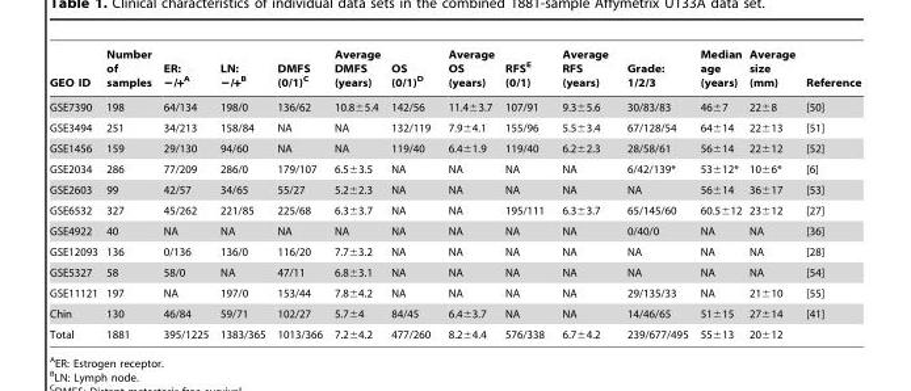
<table><thead><tr><td>GEO ID</td><td>Number of samples</td><td>ER: −/+<sup>A</sup></td><td>LN: −/+<sup>B</sup></td><td>DMFS (0/1)<sup>C</sup></td><td>Average DMFS (years)</td><td>OS (0/1)<sup>D</sup></td><td>Average OS (years)</td><td>RFS<sup>E</sup> (0/1)</td><td>Average RFS (years)</td><td>Grade: 1/2/3</td><td>Median age (years)</td><td>Average size (mm)</td><td>Reference</td></tr></thead><tbody><tr><td>GSE7390</td><td>198</td><td>64/134</td><td>198/0</td><td>136/62</td><td>10.8±5.4</td><td>142/56</td><td>11.4±3.7</td><td>107/91</td><td>9.3±5.6</td><td>30/83/83</td><td>46±7</td><td>22±8</td><td>[50]</td></tr><tr><td>GSE3494</td><td>251</td><td>34/213</td><td>158/84</td><td>NA</td><td>NA</td><td>132/119</td><td>7.9±4.1</td><td>155/96</td><td>5.5±3.4</td><td>67/128/54</td><td>64±14</td><td>22±13</td><td>[51]</td></tr><tr><td>GSE1456</td><td>159</td><td>29/130</td><td>94/60</td><td>NA</td><td>NA</td><td>119/40</td><td>6.4±1.9</td><td>119/40</td><td>6.2±2.3</td><td>28/58/61</td><td>56±14</td><td>22±12</td><td>[52]</td></tr><tr><td>GSE2034</td><td>286</td><td>77/209</td><td>286/0</td><td>179/107</td><td>6.5±3.5</td><td>NA</td><td>NA</td><td>NA</td><td>NA</td><td>6/42/139*</td><td>53±12*</td><td>10±6*</td><td>[6]</td></tr><tr><td>GSE2603</td><td>99</td><td>42/57</td><td>34/65</td><td>55/27</td><td>5.2±2.3</td><td>NA</td><td>NA</td><td>NA</td><td>NA</td><td>NA</td><td>56±14</td><td>36±17</td><td>[53]</td></tr><tr><td>GSE6532</td><td>327</td><td>45/262</td><td>221/85</td><td>225/68</td><td>6.3±3.7</td><td>NA</td><td>NA</td><td>195/111</td><td>6.3±3.7</td><td>65/145/60</td><td>60.5±12</td><td>23±12</td><td>[27]</td></tr><tr><td>GSE4922</td><td>40</td><td>NA</td><td>NA</td><td>NA</td><td>NA</td><td>NA</td><td>NA</td><td>NA</td><td>NA</td><td>0/40/0</td><td>NA</td><td>NA</td><td>[36]</td></tr><tr><td>GSE12093</td><td>136</td><td>0/136</td><td>136/0</td><td>116/20</td><td>7.7±3.2</td><td>NA</td><td>NA</td><td>NA</td><td>NA</td><td>NA</td><td>NA</td><td>NA</td><td>[28]</td></tr><tr><td>GSE5327</td><td>58</td><td>58/0</td><td>NA</td><td>47/11</td><td>6.8±3.1</td><td>NA</td><td>NA</td><td>NA</td><td>NA</td><td>NA</td><td>NA</td><td>NA</td><td>[54]</td></tr><tr><td>GSE11121</td><td>197</td><td>NA</td><td>197/0</td><td>153/44</td><td>7.8±4.2</td><td>NA</td><td>NA</td><td>NA</td><td>NA</td><td>29/135/33</td><td>NA</td><td>21±10</td><td>[55]</td></tr><tr><td>Chin</td><td>130</td><td>46/84</td><td>59/71</td><td>102/27</td><td>5.7±4</td><td>84/45</td><td>6.4±3.7</td><td>NA</td><td>NA</td><td>14/46/65</td><td>51±15</td><td>27±14</td><td>[41]</td></tr><tr><td>Total</td><td>1881</td><td>395/1225</td><td>1383/365</td><td>1013/366</td><td>7.2±4.2</td><td>477/260</td><td>8.2±4.4</td><td>576/338</td><td>6.7±4.2</td><td>239/677/495</td><td>55±13</td><td>20±12</td><td></td></tr></tbody></table>